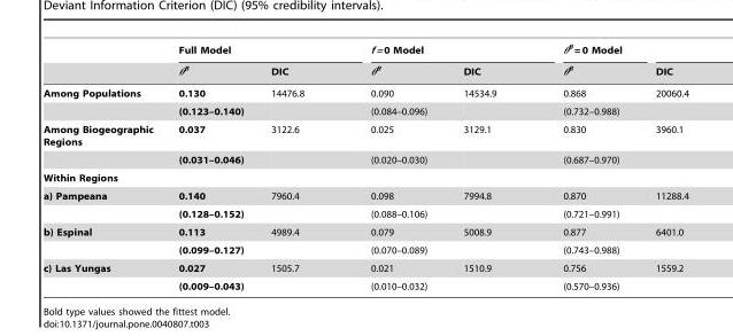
<table><thead><tr><td rowspan="2"></td><td colspan="2">Full Model</td><td colspan="2">f = 0 Model</td><td rowspan="2">θ<sup>B</sup> = 0 Model θ<sup>B</sup></td><td rowspan="2">DIC</td></tr><tr><td>θ<sup>B</sup></td><td>DIC</td><td>θ<sup>B</sup></td><td>DIC</td></tr></thead><tbody><tr><td rowspan="2">Among Populations</td><td>0.130</td><td>14476.8</td><td>0.090</td><td>14534.9</td><td>0.868</td><td>20060.4</td></tr><tr><td>(0.123–0.140)</td><td></td><td>(0.084–0.096)</td><td></td><td>(0.732–0.988)</td><td></td></tr><tr><td rowspan="2">Among Biogeographic Regions</td><td>0.037</td><td>3122.6</td><td>0.025</td><td>3129.1</td><td>0.830</td><td>3960.1</td></tr><tr><td>(0.031–0.046)</td><td></td><td>(0.020–0.030)</td><td></td><td>(0.687–0.970)</td><td></td></tr><tr><td colspan="7">Within Regions</td></tr><tr><td rowspan="2">a) Pampeana</td><td>0.140</td><td>7960.4</td><td>0.098</td><td>7994.8</td><td>0.870</td><td>11288.4</td></tr><tr><td>(0.128–0.152)</td><td></td><td>(0.088–0.106)</td><td></td><td>(0.721–0.991)</td><td></td></tr><tr><td rowspan="2">b) Espinal</td><td>0.113</td><td>4989.4</td><td>0.079</td><td>5008.9</td><td>0.877</td><td>6401.0</td></tr><tr><td>(0.099–0.127)</td><td></td><td>(0.070–0.089)</td><td></td><td>(0.743–0.988)</td><td></td></tr><tr><td rowspan="2">c) Las Yungas</td><td>0.027</td><td>1505.7</td><td>0.021</td><td>1510.9</td><td>0.756</td><td>1559.2</td></tr><tr><td>(0.009–0.043)</td><td></td><td>(0.010–0.032)</td><td></td><td>(0.570–0.936)</td><td></td></tr></tbody></table>